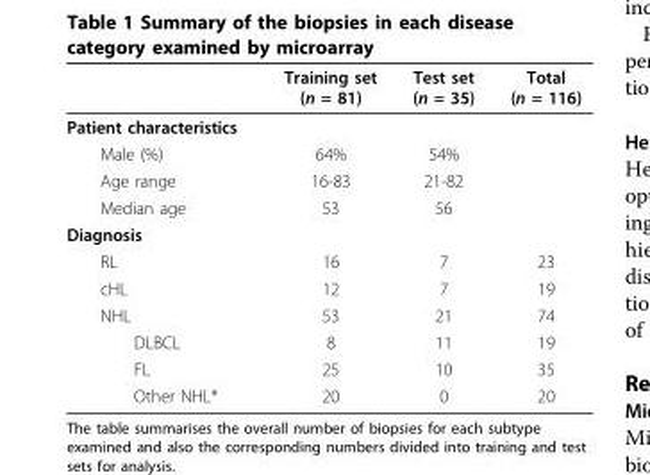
<table><thead><tr><td></td><td>Training set (n = 81)</td><td>Test set (n = 35)</td><td>Total (n = 116)</td></tr></thead><tbody><tr><td colspan="4">Patient characteristics</td></tr><tr><td>Male (%)</td><td>64%</td><td>54%</td><td></td></tr><tr><td>Age range</td><td>16-83</td><td>21-82</td><td></td></tr><tr><td>Median age</td><td>53</td><td>56</td><td></td></tr><tr><td colspan="4">Diagnosis</td></tr><tr><td>RL</td><td>16</td><td>7</td><td>23</td></tr><tr><td>cHL</td><td>12</td><td>7</td><td>19</td></tr><tr><td>NHL</td><td>53</td><td>21</td><td>74</td></tr><tr><td>DLBCL</td><td>8</td><td>11</td><td>19</td></tr><tr><td>FL</td><td>25</td><td>10</td><td>35</td></tr><tr><td>Other NHL*</td><td>20</td><td>0</td><td>20</td></tr></tbody></table>